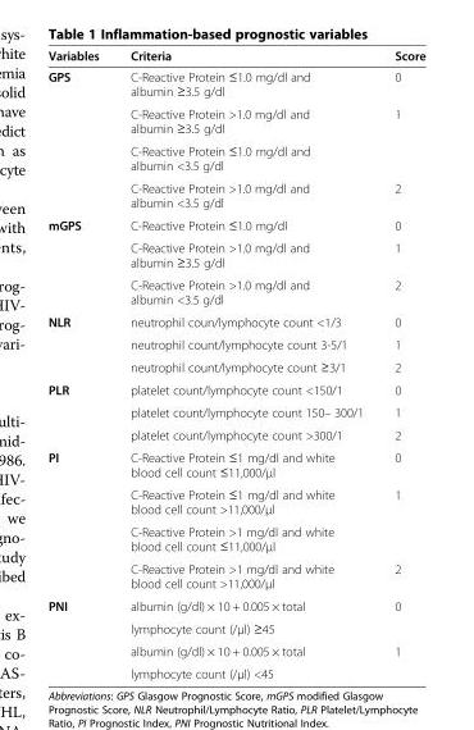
<table><thead><tr><td>Variables</td><td>Criteria</td><td>Score</td></tr></thead><tbody><tr><td rowspan="4">GPS</td><td>C-Reactive Protein ≤1.0 mg/dl and albumin ≥3.5 g/dl</td><td>0</td></tr><tr><td>C-Reactive Protein &gt;1.0 mg/dl and albumin ≥3.5 g/dl</td><td>1</td></tr><tr><td>C-Reactive Protein ≤1.0 mg/dl and albumin &lt;3.5 g/dl</td><td></td></tr><tr><td>C-Reactive Protein &gt;1.0 mg/dl and albumin &lt;3.5 g/dl</td><td>2</td></tr><tr><td rowspan="3">mGPS</td><td>C-Reactive Protein ≤1.0 mg/dl</td><td>0</td></tr><tr><td>C-Reactive Protein &gt;1.0 mg/dl and albumin ≥3.5 g/dl</td><td>1</td></tr><tr><td>C-Reactive Protein &gt;1.0 mg/dl and albumin &lt;3.5 g/dl</td><td>2</td></tr><tr><td rowspan="3">NLR</td><td>neutrophil coun/lymphocyte count &lt;1/3</td><td>0</td></tr><tr><td>neutrophil count/lymphocyte count 3-5/1</td><td>1</td></tr><tr><td>neutrophil count/lymphocyte count ≥3/1</td><td>2</td></tr><tr><td rowspan="3">PLR</td><td>platelet count/lymphocyte count &lt;150/1</td><td>0</td></tr><tr><td>platelet count/lymphocyte count 150– 300/1</td><td>1</td></tr><tr><td>platelet count/lymphocyte count &gt;300/1</td><td>2</td></tr><tr><td rowspan="4">PI</td><td>C-Reactive Protein ≤1 mg/dl and white blood cell count ≤11,000/μl</td><td>0</td></tr><tr><td>C-Reactive Protein ≤1 mg/dl and white blood cell count &gt;11,000/μl</td><td rowspan="2">1</td></tr><tr><td>C-Reactive Protein &gt;1 mg/dl and white blood cell count ≤11,000/μl</td></tr><tr><td>C-Reactive Protein &gt;1 mg/dl and white blood cell count &gt;11,000/μl</td><td>2</td></tr><tr><td rowspan="4">PNI</td><td>albumin (g/dl) × 10 + 0.005 × total</td><td rowspan="2">0</td></tr><tr><td>lymphocyte count (/μl) ≥45</td></tr><tr><td>albumin (g/dl) × 10 + 0.005 × total</td><td rowspan="2">1</td></tr><tr><td>lymphocyte count (/μl) &lt;45</td></tr></tbody></table>